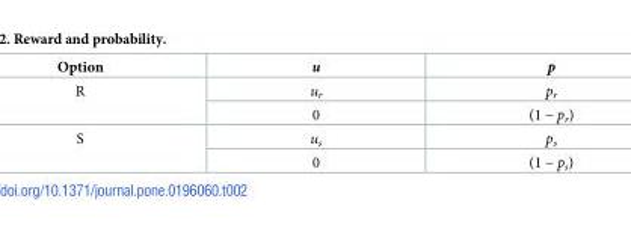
<table><thead><tr><td>Option</td><td>u</td><td>p</td></tr></thead><tbody><tr><td rowspan="2">R</td><td>u<sub>r</sub></td><td>p<sub>r</sub></td></tr><tr><td>0</td><td>(1 − p<sub>r</sub>)</td></tr><tr><td rowspan="2">S</td><td>u<sub>s</sub></td><td>p<sub>s</sub></td></tr><tr><td>0</td><td>(1 − p<sub>s</sub>)</td></tr></tbody></table>